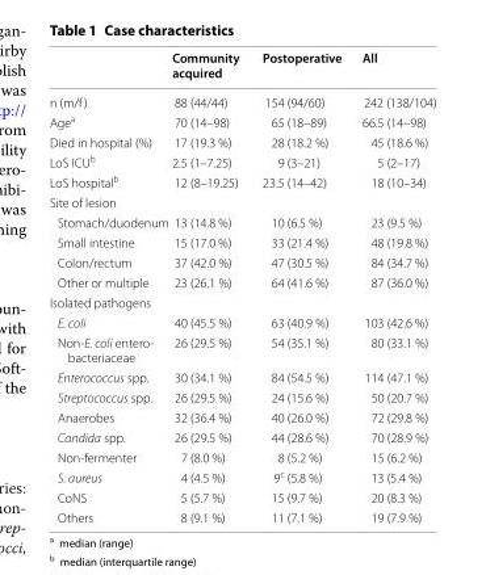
<table><thead><tr><td></td><td>Community acquired</td><td>Postoperative</td><td>All</td></tr></thead><tbody><tr><td>n (m/f)</td><td>88 (44/44)</td><td>154 (94/60)</td><td>242 (138/104)</td></tr><tr><td>Age<sup>a</sup></td><td>70 (14–98)</td><td>65 (18–89)</td><td>66.5 (14–98)</td></tr><tr><td>Died in hospital (%)</td><td>17 (19.3 %)</td><td>28 (18.2 %)</td><td>45 (18.6 %)</td></tr><tr><td>LoS ICU<sup>b</sup></td><td>2.5 (1–7.25)</td><td>9 (3–21)</td><td>5 (2–17)</td></tr><tr><td>LoS hospital<sup>b</sup></td><td>12 (8–19.25)</td><td>23.5 (14–42)</td><td>18 (10–34)</td></tr><tr><td colspan="4">Site of lesion</td></tr><tr><td>Stomach/duodenum</td><td>13 (14.8 %)</td><td>10 (6.5 %)</td><td>23 (9.5 %)</td></tr><tr><td>Small intestine</td><td>15 (17.0 %)</td><td>33 (21.4 %)</td><td>48 (19.8 %)</td></tr><tr><td>Colon/rectum</td><td>37 (42.0 %)</td><td>47 (30.5 %)</td><td>84 (34.7 %)</td></tr><tr><td>Other or multiple</td><td>23 (26.1 %)</td><td>64 (41.6 %)</td><td>87 (36.0 %)</td></tr><tr><td colspan="4">Isolated pathogens</td></tr><tr><td>E. coli</td><td>40 (45.5 %)</td><td>63 (40.9 %)</td><td>103 (42.6 %)</td></tr><tr><td>Non-E. coli entero- bacteriaceae</td><td>26 (29.5 %)</td><td>54 (35.1 %)</td><td>80 (33.1 %)</td></tr><tr><td>Enterococcus spp.</td><td>30 (34.1 %)</td><td>84 (54.5 %)</td><td>114 (47.1 %)</td></tr><tr><td>Streptococcus spp.</td><td>26 (29.5 %)</td><td>24 (15.6 %)</td><td>50 (20.7 %)</td></tr><tr><td>Anaerobes</td><td>32 (36.4 %)</td><td>40 (26.0 %)</td><td>72 (29.8 %)</td></tr><tr><td>Candida spp.</td><td>26 (29.5 %)</td><td>44 (28.6 %)</td><td>70 (28.9 %)</td></tr><tr><td>Non-fermenter</td><td>7 (8.0 %)</td><td>8 (5.2 %)</td><td>15 (6.2 %)</td></tr><tr><td>S. aureus</td><td>4 (4.5 %)</td><td>9<sup>c</sup> (5.8 %)</td><td>13 (5.4 %)</td></tr><tr><td>CoNS</td><td>5 (5.7 %)</td><td>15 (9.7 %)</td><td>20 (8.3 %)</td></tr><tr><td>Others</td><td>8 (9.1 %)</td><td>11 (7.1 %)</td><td>19 (7.9 %)</td></tr></tbody></table>